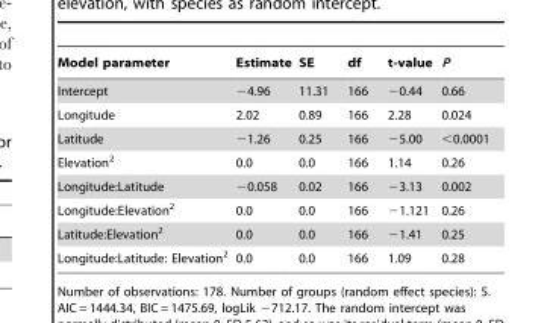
<table><thead><tr><td>Model parameter</td><td>Estimate</td><td>SE</td><td>df</td><td>t-value</td><td>P</td></tr></thead><tbody><tr><td>Intercept</td><td>−4.96</td><td>11.31</td><td>166</td><td>−0.44</td><td>0.66</td></tr><tr><td>Longitude</td><td>2.02</td><td>0.89</td><td>166</td><td>2.28</td><td>0.024</td></tr><tr><td>Latitude</td><td>−1.26</td><td>0.25</td><td>166</td><td>−5.00</td><td>&lt;0.0001</td></tr><tr><td>Elevation<sup>2</sup></td><td>0.0</td><td>0.0</td><td>166</td><td>1.14</td><td>0.26</td></tr><tr><td>Longitude:Latitude</td><td>−0.058</td><td>0.02</td><td>166</td><td>−3.13</td><td>0.002</td></tr><tr><td>Longitude:Elevation<sup>2</sup></td><td>0.0</td><td>0.0</td><td>166</td><td>−1.121</td><td>0.26</td></tr><tr><td>Latitude:Elevation<sup>2</sup></td><td>0.0</td><td>0.0</td><td>166</td><td>−1.41</td><td>0.25</td></tr><tr><td>Longitude:Latitude: Elevation<sup>2</sup></td><td>0.0</td><td>0.0</td><td>166</td><td>1.09</td><td>0.28</td></tr></tbody></table>